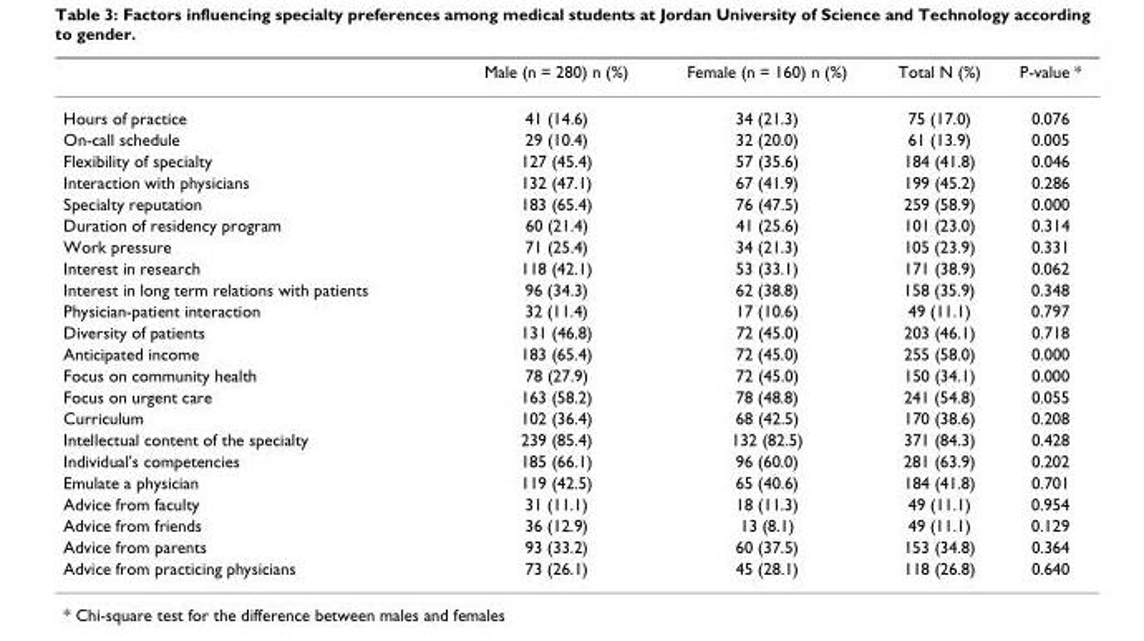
<table><thead><tr><td></td><td>Male (n = 280) n (%)</td><td>Female (n = 160) n (%)</td><td>Total N (%)</td><td>P-value *</td></tr></thead><tbody><tr><td>Hours of practice</td><td>41 (14.6)</td><td>34 (21.3)</td><td>75 (17.0)</td><td>0.076</td></tr><tr><td>On-call schedule</td><td>29 (10.4)</td><td>32 (20.0)</td><td>61 (13.9)</td><td>0.005</td></tr><tr><td>Flexibility of specialty</td><td>127 (45.4)</td><td>57 (35.6)</td><td>184 (41.8)</td><td>0.046</td></tr><tr><td>Interaction with physicians</td><td>132 (47.1)</td><td>67 (41.9)</td><td>199 (45.2)</td><td>0.286</td></tr><tr><td>Specialty reputation</td><td>183 (65.4)</td><td>76 (47.5)</td><td>259 (58.9)</td><td>0.000</td></tr><tr><td>Duration of residency program</td><td>60 (21.4)</td><td>41 (25.6)</td><td>101 (23.0)</td><td>0.314</td></tr><tr><td>Work pressure</td><td>71 (25.4)</td><td>34 (21.3)</td><td>105 (23.9)</td><td>0.331</td></tr><tr><td>Interest in research</td><td>118 (42.1)</td><td>53 (33.1)</td><td>171 (38.9)</td><td>0.062</td></tr><tr><td>Interest in long term relations with patients</td><td>96 (34.3)</td><td>62 (38.8)</td><td>158 (35.9)</td><td>0.348</td></tr><tr><td>Physician-patient interaction</td><td>32 (11.4)</td><td>17 (10.6)</td><td>49 (11.1)</td><td>0.797</td></tr><tr><td>Diversity of patients</td><td>131 (46.8)</td><td>72 (45.0)</td><td>203 (46.1)</td><td>0.718</td></tr><tr><td>Anticipated income</td><td>183 (65.4)</td><td>72 (45.0)</td><td>255 (58.0)</td><td>0.000</td></tr><tr><td>Focus on community health</td><td>78 (27.9)</td><td>72 (45.0)</td><td>150 (34.1)</td><td>0.000</td></tr><tr><td>Focus on urgent care</td><td>163 (58.2)</td><td>78 (48.8)</td><td>241 (54.8)</td><td>0.055</td></tr><tr><td>Curriculum</td><td>102 (36.4)</td><td>68 (42.5)</td><td>170 (38.6)</td><td>0.208</td></tr><tr><td>Intellectual content of the specialty</td><td>239 (85.4)</td><td>132 (82.5)</td><td>371 (84.3)</td><td>0.428</td></tr><tr><td>Individual&#x27;s competencies</td><td>185 (66.1)</td><td>96 (60.0)</td><td>281 (63.9)</td><td>0.202</td></tr><tr><td>Emulate a physician</td><td>119 (42.5)</td><td>65 (40.6)</td><td>184 (41.8)</td><td>0.701</td></tr><tr><td>Advice from faculty</td><td>31 (11.1)</td><td>18 (11.3)</td><td>49 (11.1)</td><td>0.954</td></tr><tr><td>Advice from friends</td><td>36 (12.9)</td><td>13 (8.1)</td><td>49 (11.1)</td><td>0.129</td></tr><tr><td>Advice from parents</td><td>93 (33.2)</td><td>60 (37.5)</td><td>153 (34.8)</td><td>0.364</td></tr><tr><td>Advice from practicing physicians</td><td>73 (26.1)</td><td>45 (28.1)</td><td>118 (26.8)</td><td>0.640</td></tr></tbody></table>